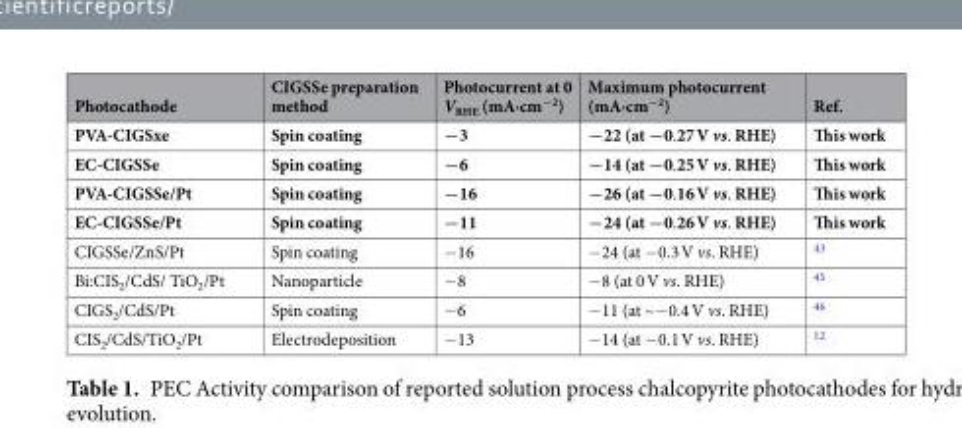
<table><thead><tr><td>Photocathode</td><td>CIGSSe preparation method</td><td>Photocurrent at 0 V<sub>RHE</sub> (mA·cm<sup>−2</sup>)</td><td>Maximum photocurrent (mA·cm<sup>−2</sup>)</td><td>Ref.</td></tr></thead><tbody><tr><td>PVA-CIGSxe</td><td>Spin coating</td><td>−3</td><td>−22 (at −0.27 V vs. RHE)</td><td>This work</td></tr><tr><td>EC-CIGSSe</td><td>Spin coating</td><td>−6</td><td>−14 (at −0.25 V vs. RHE)</td><td>This work</td></tr><tr><td>PVA-CIGSSe/Pt</td><td>Spin coating</td><td>−16</td><td>−26 (at −0.16 V vs. RHE)</td><td>This work</td></tr><tr><td>EC-CIGSSe/Pt</td><td>Spin coating</td><td>−11</td><td>−24 (at −0.26 V vs. RHE)</td><td>This work</td></tr><tr><td>CIGSSe/ZnS/Pt</td><td>Spin coating</td><td>−16</td><td>−24 (at −0.3 V vs. RHE)</td><td><sup>43</sup></td></tr><tr><td>Bi:CIS<sub>2</sub>/CdS/ TiO<sub>2</sub>/Pt</td><td>Nanoparticle</td><td>−8</td><td>−8 (at 0 V vs. RHE)</td><td><sup>45</sup></td></tr><tr><td>CIGS<sub>2</sub>/CdS/Pt</td><td>Spin coating</td><td>−6</td><td>−11 (at ~−0.4 V vs. RHE)</td><td><sup>46</sup></td></tr><tr><td>CIS<sub>2</sub>/CdS/TiO<sub>2</sub>/Pt</td><td>Electrodeposition</td><td>−13</td><td>−14 (at −0.1 V vs. RHE)</td><td><sup>12</sup></td></tr></tbody></table>